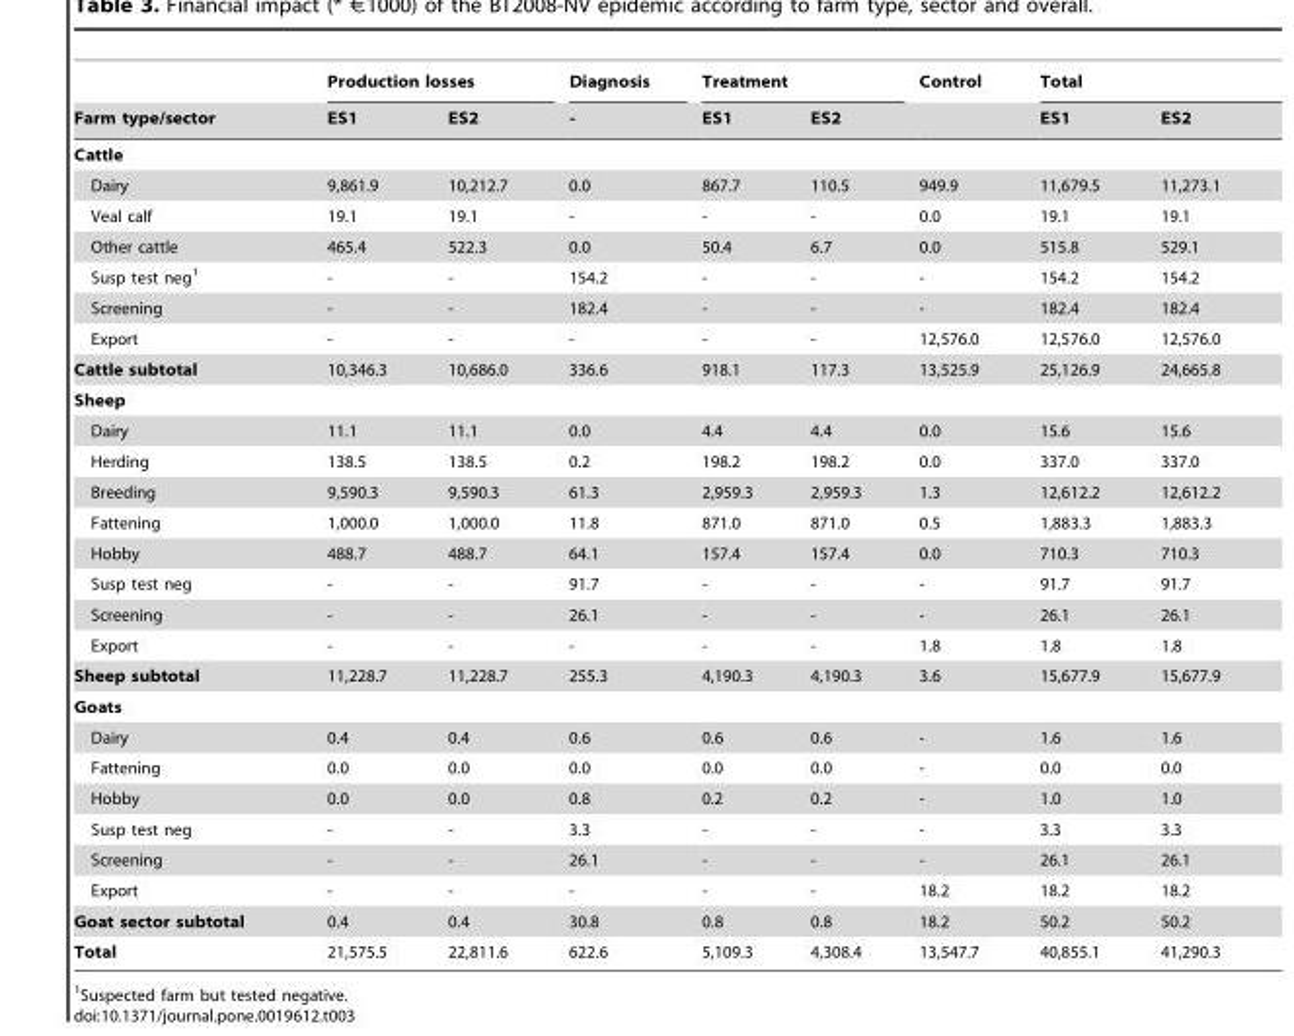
<table><thead><tr><td rowspan="2">Farm type/sector</td><td colspan="2">Production losses</td><td rowspan="2">Diagnosis -</td><td colspan="2">Treatment</td><td rowspan="2">Control</td><td colspan="2">Total</td></tr><tr><td>ES1</td><td>ES2</td><td>ES1</td><td>ES2</td><td>ES1</td><td>ES2</td></tr></thead><tbody><tr><td colspan="9">Cattle</td></tr><tr><td>Dairy</td><td>9,861.9</td><td>10,212.7</td><td>0.0</td><td>867.7</td><td>110.5</td><td>949.9</td><td>11,679.5</td><td>11,273.1</td></tr><tr><td>Veal calf</td><td>19.1</td><td>19.1</td><td>-</td><td>-</td><td>-</td><td>0.0</td><td>19.1</td><td>19.1</td></tr><tr><td>Other cattle</td><td>465.4</td><td>522.3</td><td>0.0</td><td>50.4</td><td>6.7</td><td>0.0</td><td>515.8</td><td>529.1</td></tr><tr><td>Susp test neg<sup>1</sup></td><td>-</td><td>-</td><td>154.2</td><td>-</td><td>-</td><td>-</td><td>154.2</td><td>154.2</td></tr><tr><td>Screening</td><td>-</td><td>-</td><td>182.4</td><td>-</td><td>-</td><td>-</td><td>182.4</td><td>182.4</td></tr><tr><td>Export</td><td>-</td><td>-</td><td>-</td><td>-</td><td>-</td><td>12,576.0</td><td>12,576.0</td><td>12,576.0</td></tr><tr><td>Cattle subtotal</td><td>10,346.3</td><td>10,686.0</td><td>336.6</td><td>918.1</td><td>117.3</td><td>13,525.9</td><td>25,126.9</td><td>24,665.8</td></tr><tr><td colspan="9">Sheep</td></tr><tr><td>Dairy</td><td>11.1</td><td>11.1</td><td>0.0</td><td>4.4</td><td>4.4</td><td>0.0</td><td>15.6</td><td>15.6</td></tr><tr><td>Herding</td><td>138.5</td><td>138.5</td><td>0.2</td><td>198.2</td><td>198.2</td><td>0.0</td><td>337.0</td><td>337.0</td></tr><tr><td>Breeding</td><td>9,590.3</td><td>9,590.3</td><td>61.3</td><td>2,959.3</td><td>2,959.3</td><td>1.3</td><td>12,612.2</td><td>12,612.2</td></tr><tr><td>Fattening</td><td>1,000.0</td><td>1,000.0</td><td>11.8</td><td>871.0</td><td>871.0</td><td>0.5</td><td>1,883.3</td><td>1,883.3</td></tr><tr><td>Hobby</td><td>488.7</td><td>488.7</td><td>64.1</td><td>157.4</td><td>157.4</td><td>0.0</td><td>710.3</td><td>710.3</td></tr><tr><td>Susp test neg</td><td>-</td><td>-</td><td>91.7</td><td>-</td><td>-</td><td>-</td><td>91.7</td><td>91.7</td></tr><tr><td>Screening</td><td>-</td><td>-</td><td>26.1</td><td>-</td><td>-</td><td>-</td><td>26.1</td><td>26.1</td></tr><tr><td>Export</td><td>-</td><td>-</td><td>-</td><td>-</td><td>-</td><td>1.8</td><td>1.8</td><td>1.8</td></tr><tr><td>Sheep subtotal</td><td>11,228.7</td><td>11,228.7</td><td>255.3</td><td>4,190.3</td><td>4,190.3</td><td>3.6</td><td>15,677.9</td><td>15,677.9</td></tr><tr><td colspan="9">Goats</td></tr><tr><td>Dairy</td><td>0.4</td><td>0.4</td><td>0.6</td><td>0.6</td><td>0.6</td><td>-</td><td>1.6</td><td>1.6</td></tr><tr><td>Fattening</td><td>0.0</td><td>0.0</td><td>0.0</td><td>0.0</td><td>0.0</td><td>-</td><td>0.0</td><td>0.0</td></tr><tr><td>Hobby</td><td>0.0</td><td>0.0</td><td>0.8</td><td>0.2</td><td>0.2</td><td>-</td><td>1.0</td><td>1.0</td></tr><tr><td>Susp test neg</td><td>-</td><td>-</td><td>3.3</td><td>-</td><td>-</td><td>-</td><td>3.3</td><td>3.3</td></tr><tr><td>Screening</td><td>-</td><td>-</td><td>26.1</td><td>-</td><td>-</td><td>-</td><td>26.1</td><td>26.1</td></tr><tr><td>Export</td><td>-</td><td>-</td><td>-</td><td>-</td><td>-</td><td>18.2</td><td>18.2</td><td>18.2</td></tr><tr><td>Goat sector subtotal</td><td>0.4</td><td>0.4</td><td>30.8</td><td>0.8</td><td>0.8</td><td>18.2</td><td>50.2</td><td>50.2</td></tr><tr><td>Total</td><td>21,575.5</td><td>22,811.6</td><td>622.6</td><td>5,109.3</td><td>4,308.4</td><td>13,547.7</td><td>40,855.1</td><td>41,290.3</td></tr></tbody></table>